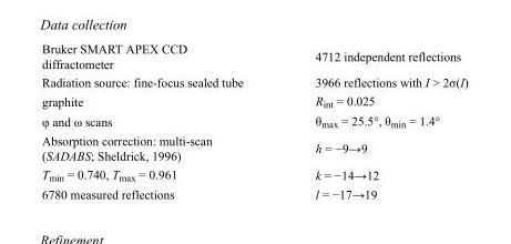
<table><tbody><tr><td>Bruker SMART APEX CCD diffractometer</td><td>4712 independent reflections</td></tr><tr><td>Radiation source: fine-focus sealed tube</td><td>3966 reflections with I &gt; 2σ(I)</td></tr><tr><td>graphite</td><td>R<sub>int</sub> = 0.025</td></tr><tr><td>φ and ω scans</td><td>θ<sub>max</sub> = 25.5°, θ<sub>min</sub> = 1.4°</td></tr><tr><td>Absorption correction: multi-scan (SADABS; Sheldrick, 1996)</td><td>h = −9→9</td></tr><tr><td>T<sub>min</sub> = 0.740, T<sub>max</sub> = 0.961</td><td>k = −14→12</td></tr><tr><td>6780 measured reflections</td><td>l = −17→19</td></tr></tbody></table>